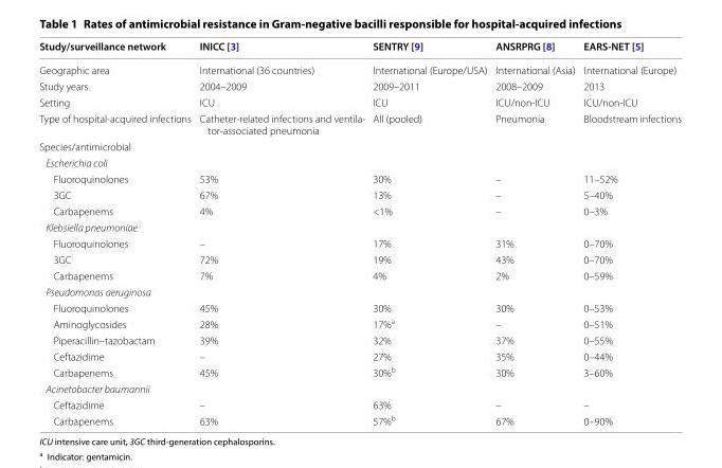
<table><thead><tr><td>Study/surveillance network</td><td>INICC [3]</td><td>SENTRY [9]</td><td>ANSRPRG [8]</td><td>EARS‑NET [5]</td></tr></thead><tbody><tr><td>Geographic area</td><td>International (36 countries)</td><td>International (Europe/USA)</td><td>International (Asia)</td><td>International (Europe)</td></tr><tr><td>Study years</td><td>2004–2009</td><td>2009–2011</td><td>2008–2009</td><td>2013</td></tr><tr><td>Setting</td><td>ICU</td><td>ICU</td><td>ICU/non‑ICU</td><td>ICU/non‑ICU</td></tr><tr><td>Type of hospital‑acquired infections</td><td>Catheter‑related infections and ventila‑ tor‑associated pneumonia</td><td>All (pooled)</td><td>Pneumonia</td><td>Bloodstream infections</td></tr><tr><td colspan="5">Species/antimicrobial</td></tr><tr><td colspan="5">Escherichia coli</td></tr><tr><td>Fluoroquinolones</td><td>53%</td><td>30%</td><td>–</td><td>11–52%</td></tr><tr><td>3GC</td><td>67%</td><td>13%</td><td>–</td><td>5–40%</td></tr><tr><td>Carbapenems</td><td>4%</td><td>&lt;1%</td><td>–</td><td>0–3%</td></tr><tr><td colspan="5">Klebsiella pneumoniae</td></tr><tr><td>Fluoroquinolones</td><td>–</td><td>17%</td><td>31%</td><td>0–70%</td></tr><tr><td>3GC</td><td>72%</td><td>19%</td><td>43%</td><td>0–70%</td></tr><tr><td>Carbapenems</td><td>7%</td><td>4%</td><td>2%</td><td>0–59%</td></tr><tr><td colspan="5">Pseudomonas aeruginosa</td></tr><tr><td>Fluoroquinolones</td><td>45%</td><td>30%</td><td>30%</td><td>0–53%</td></tr><tr><td>Aminoglycosides</td><td>28%</td><td>17%<sup>a</sup></td><td>–</td><td>0–51%</td></tr><tr><td>Piperacillin–tazobactam</td><td>39%</td><td>32%</td><td>37%</td><td>0–55%</td></tr><tr><td>Ceftazidime</td><td>–</td><td>27%</td><td>35%</td><td>0–44%</td></tr><tr><td>Carbapenems</td><td>45%</td><td>30%<sup>b</sup></td><td>30%</td><td>3–60%</td></tr><tr><td colspan="5">Acinetobacter baumannii</td></tr><tr><td>Ceftazidime</td><td>–</td><td>63%</td><td>–</td><td>–</td></tr><tr><td>Carbapenems</td><td>63%</td><td>57%<sup>b</sup></td><td>67%</td><td>0–90%</td></tr></tbody></table>